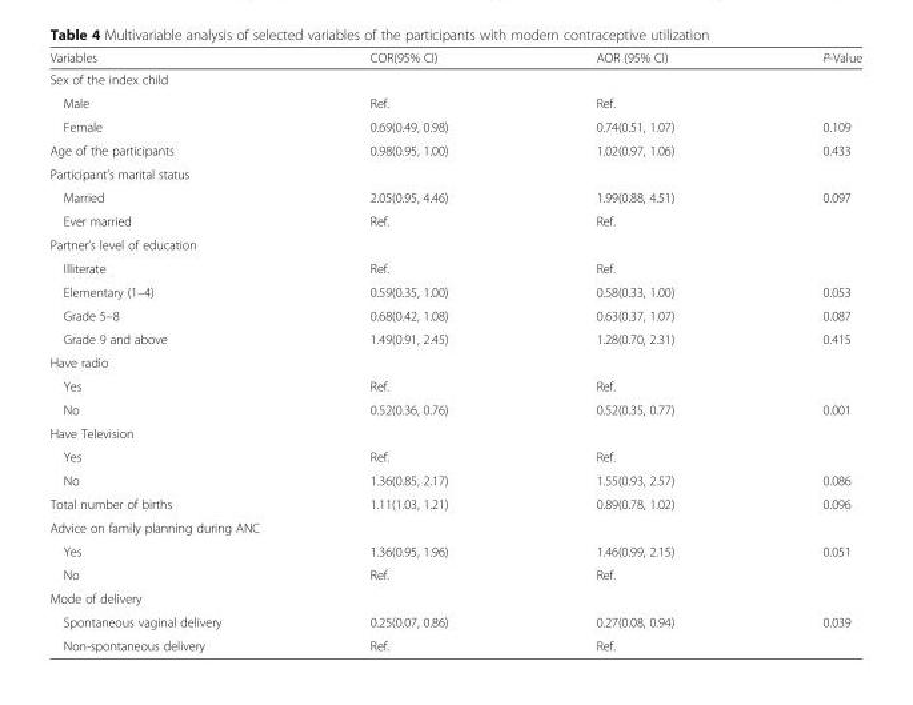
<table><thead><tr><td>Variables</td><td>COR(95% CI)</td><td>AOR (95% CI)</td><td>P-Value</td></tr></thead><tbody><tr><td colspan="4">Sex of the index child</td></tr><tr><td>Male</td><td>Ref.</td><td>Ref.</td><td></td></tr><tr><td>Female</td><td>0.69(0.49, 0.98)</td><td>0.74(0.51, 1.07)</td><td>0.109</td></tr><tr><td>Age of the participants</td><td>0.98(0.95, 1.00)</td><td>1.02(0.97, 1.06)</td><td>0.433</td></tr><tr><td colspan="4">Participant’s marital status</td></tr><tr><td>Married</td><td>2.05(0.95, 4.46)</td><td>1.99(0.88, 4.51)</td><td>0.097</td></tr><tr><td>Ever married</td><td>Ref.</td><td>Ref.</td><td></td></tr><tr><td colspan="4">Partner’s level of education</td></tr><tr><td>Illiterate</td><td>Ref.</td><td>Ref.</td><td></td></tr><tr><td>Elementary (1–4)</td><td>0.59(0.35, 1.00)</td><td>0.58(0.33, 1.00)</td><td>0.053</td></tr><tr><td>Grade 5–8</td><td>0.68(0.42, 1.08)</td><td>0.63(0.37, 1.07)</td><td>0.087</td></tr><tr><td>Grade 9 and above</td><td>1.49(0.91, 2.45)</td><td>1.28(0.70, 2.31)</td><td>0.415</td></tr><tr><td colspan="4">Have radio</td></tr><tr><td>Yes</td><td>Ref.</td><td>Ref.</td><td></td></tr><tr><td>No</td><td>0.52(0.36, 0.76)</td><td>0.52(0.35, 0.77)</td><td>0.001</td></tr><tr><td colspan="4">Have Television</td></tr><tr><td>Yes</td><td>Ref.</td><td>Ref.</td><td></td></tr><tr><td>No</td><td>1.36(0.85, 2.17)</td><td>1.55(0.93, 2.57)</td><td>0.086</td></tr><tr><td>Total number of births</td><td>1.11(1.03, 1.21)</td><td>0.89(0.78, 1.02)</td><td>0.096</td></tr><tr><td colspan="4">Advice on family planning during ANC</td></tr><tr><td>Yes</td><td>1.36(0.95, 1.96)</td><td>1.46(0.99, 2.15)</td><td>0.051</td></tr><tr><td>No</td><td>Ref.</td><td>Ref.</td><td></td></tr><tr><td colspan="4">Mode of delivery</td></tr><tr><td>Spontaneous vaginal delivery</td><td>0.25(0.07, 0.86)</td><td>0.27(0.08, 0.94)</td><td>0.039</td></tr><tr><td>Non-spontaneous delivery</td><td>Ref.</td><td>Ref.</td><td></td></tr></tbody></table>